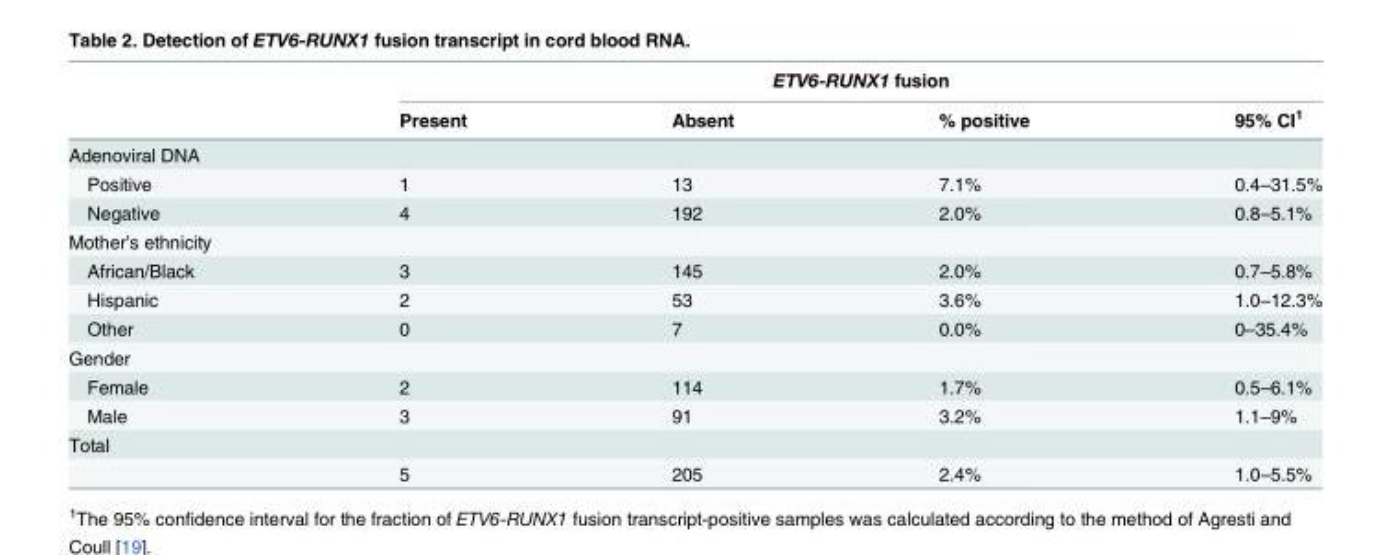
<table><thead><tr><td rowspan="2"></td><td colspan="4">ETV6-RUNX1 fusion</td></tr><tr><td>Present</td><td>Absent</td><td>% positive</td><td>95% CI<sup>1</sup></td></tr></thead><tbody><tr><td colspan="5">Adenoviral DNA</td></tr><tr><td>Positive</td><td>1</td><td>13</td><td>7.1%</td><td>0.4–31.5%</td></tr><tr><td>Negative</td><td>4</td><td>192</td><td>2.0%</td><td>0.8–5.1%</td></tr><tr><td colspan="5">Mother’s ethnicity</td></tr><tr><td>African/Black</td><td>3</td><td>145</td><td>2.0%</td><td>0.7–5.8%</td></tr><tr><td>Hispanic</td><td>2</td><td>53</td><td>3.6%</td><td>1.0–12.3%</td></tr><tr><td>Other</td><td>0</td><td>7</td><td>0.0%</td><td>0–35.4%</td></tr><tr><td colspan="5">Gender</td></tr><tr><td>Female</td><td>2</td><td>114</td><td>1.7%</td><td>0.5–6.1%</td></tr><tr><td>Male</td><td>3</td><td>91</td><td>3.2%</td><td>1.1–9%</td></tr><tr><td colspan="5">Total</td></tr><tr><td></td><td>5</td><td>205</td><td>2.4%</td><td>1.0–5.5%</td></tr></tbody></table>